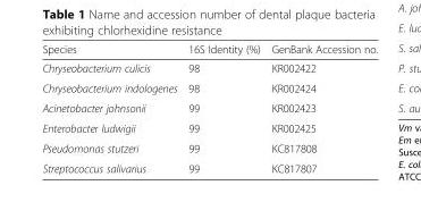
<table><thead><tr><td>Species</td><td>16S Identity (%)</td><td>GenBank Accession no.</td></tr></thead><tbody><tr><td>Chryseobacterium culicis</td><td>98</td><td>KR002422</td></tr><tr><td>Chryseobacterium indologenes</td><td>98</td><td>KR002424</td></tr><tr><td>Acinetobacter johnsonii</td><td>99</td><td>KR002423</td></tr><tr><td>Enterobacter ludwigii</td><td>99</td><td>KR002425</td></tr><tr><td>Pseudomonas stutzeri</td><td>99</td><td>KC817808</td></tr><tr><td>Streptococcus salivarius</td><td>99</td><td>KC817807</td></tr></tbody></table>